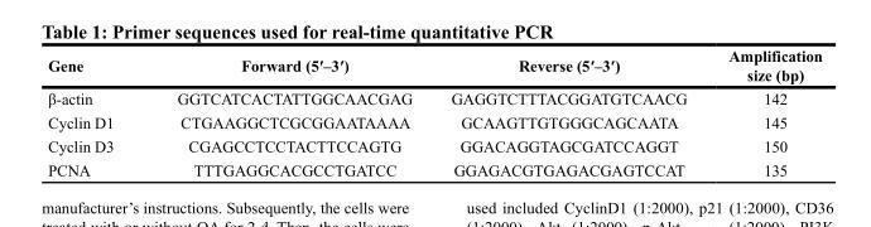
<table><thead><tr><td>Gene</td><td>Forward (5ʹ–3ʹ)</td><td>Reverse (5ʹ–3ʹ)</td><td>Amplification size (bp)</td></tr></thead><tbody><tr><td>β-actin</td><td>GGTCATCACTATTGGCAACGAG</td><td>GAGGTCTTTACGGATGTCAACG</td><td>142</td></tr><tr><td>Cyclin D1</td><td>CTGAAGGCTCGCGGAATAAAA</td><td>GCAAGTTGTGGGCAGCAATA</td><td>145</td></tr><tr><td>Cyclin D3</td><td>CGAGCCTCCTACTTCCAGTG</td><td>GGACAGGTAGCGATCCAGGT</td><td>150</td></tr><tr><td>PCNA</td><td>TTTGAGGCACGCCTGATCC</td><td>GGAGACGTGAGACGAGTCCAT</td><td>135</td></tr></tbody></table>